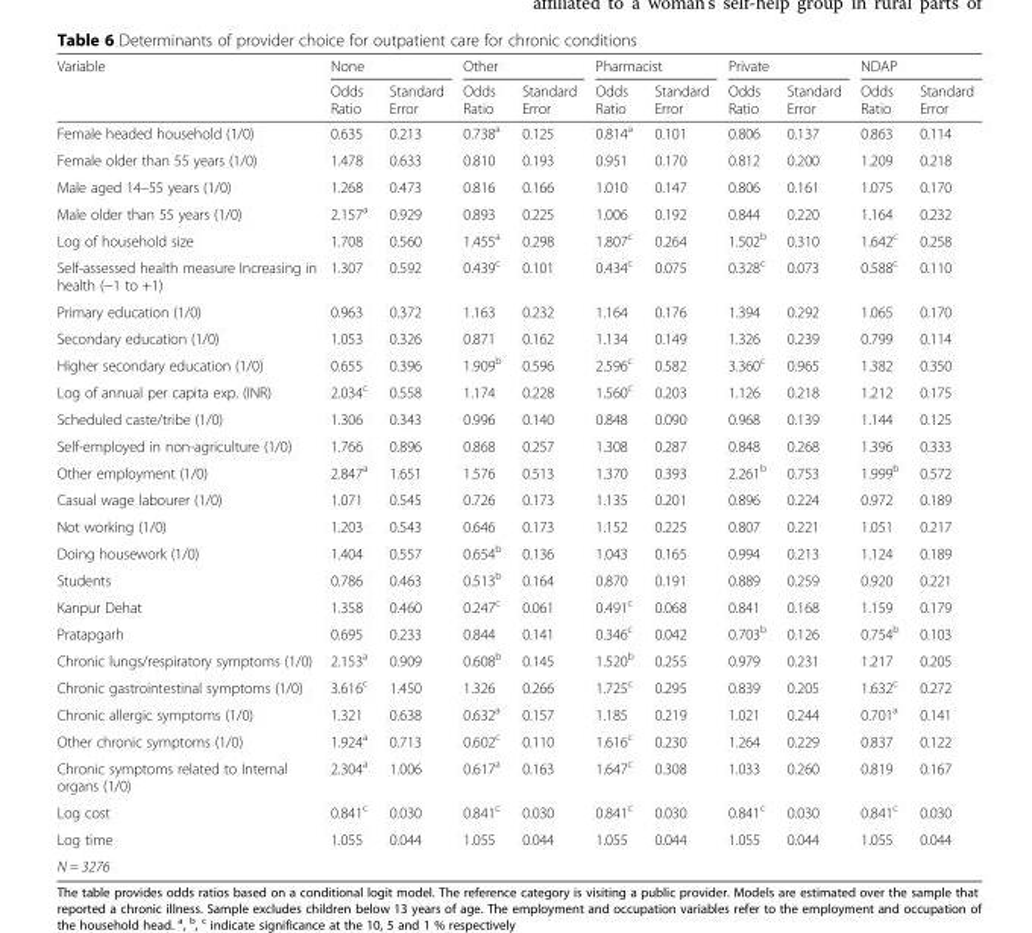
<table><thead><tr><td rowspan="2">Variable</td><td colspan="2">None</td><td colspan="2">Other</td><td colspan="2">Pharmacist</td><td colspan="2">Private</td><td colspan="2">NDAP</td></tr><tr><td>Odds Ratio</td><td>Standard Error</td><td>Odds Ratio</td><td>Standard Error</td><td>Odds Ratio</td><td>Standard Error</td><td>Odds Ratio</td><td>Standard Error</td><td>Odds Ratio</td><td>Standard Error</td></tr></thead><tbody><tr><td>Female headed household (1/0)</td><td>0.635</td><td>0.213</td><td>0.738<sup>a</sup></td><td>0.125</td><td>0.814<sup>a</sup></td><td>0.101</td><td>0.806</td><td>0.137</td><td>0.863</td><td>0.114</td></tr><tr><td>Female older than 55 years (1/0)</td><td>1.478</td><td>0.633</td><td>0.810</td><td>0.193</td><td>0.951</td><td>0.170</td><td>0.812</td><td>0.200</td><td>1.209</td><td>0.218</td></tr><tr><td>Male aged 14–55 years (1/0)</td><td>1.268</td><td>0.473</td><td>0.816</td><td>0.166</td><td>1.010</td><td>0.147</td><td>0.806</td><td>0.161</td><td>1.075</td><td>0.170</td></tr><tr><td>Male older than 55 years (1/0)</td><td>2.157<sup>a</sup></td><td>0.929</td><td>0.893</td><td>0.225</td><td>1.006</td><td>0.192</td><td>0.844</td><td>0.220</td><td>1.164</td><td>0.232</td></tr><tr><td>Log of household size</td><td>1.708</td><td>0.560</td><td>1.455<sup>a</sup></td><td>0.298</td><td>1.807<sup>c</sup></td><td>0.264</td><td>1.502<sup>b</sup></td><td>0.310</td><td>1.642<sup>c</sup></td><td>0.258</td></tr><tr><td>Self-assessed health measure Increasing in health (−1 to +1)</td><td>1.307</td><td>0.592</td><td>0.439<sup>c</sup></td><td>0.101</td><td>0.434<sup>c</sup></td><td>0.075</td><td>0.328<sup>c</sup></td><td>0.073</td><td>0.588<sup>c</sup></td><td>0.110</td></tr><tr><td>Primary education (1/0)</td><td>0.963</td><td>0.372</td><td>1.163</td><td>0.232</td><td>1.164</td><td>0.176</td><td>1.394</td><td>0.292</td><td>1.065</td><td>0.170</td></tr><tr><td>Secondary education (1/0)</td><td>1.053</td><td>0.326</td><td>0.871</td><td>0.162</td><td>1.134</td><td>0.149</td><td>1.326</td><td>0.239</td><td>0.799</td><td>0.114</td></tr><tr><td>Higher secondary education (1/0)</td><td>0.655</td><td>0.396</td><td>1.909<sup>b</sup></td><td>0.596</td><td>2.596<sup>c</sup></td><td>0.582</td><td>3.360<sup>c</sup></td><td>0.965</td><td>1.382</td><td>0.350</td></tr><tr><td>Log of annual per capita exp. (INR)</td><td>2.034<sup>c</sup></td><td>0.558</td><td>1.174</td><td>0.228</td><td>1.560<sup>c</sup></td><td>0.203</td><td>1.126</td><td>0.218</td><td>1.212</td><td>0.175</td></tr><tr><td>Scheduled caste/tribe (1/0)</td><td>1.306</td><td>0.343</td><td>0.996</td><td>0.140</td><td>0.848</td><td>0.090</td><td>0.968</td><td>0.139</td><td>1.144</td><td>0.125</td></tr><tr><td>Self-employed in non-agriculture (1/0)</td><td>1.766</td><td>0.896</td><td>0.868</td><td>0.257</td><td>1.308</td><td>0.287</td><td>0.848</td><td>0.268</td><td>1.396</td><td>0.333</td></tr><tr><td>Other employment (1/0)</td><td>2.847<sup>a</sup></td><td>1.651</td><td>1.576</td><td>0.513</td><td>1.370</td><td>0.393</td><td>2.261<sup>b</sup></td><td>0.753</td><td>1.999<sup>b</sup></td><td>0.572</td></tr><tr><td>Casual wage labourer (1/0)</td><td>1.071</td><td>0.545</td><td>0.726</td><td>0.173</td><td>1.135</td><td>0.201</td><td>0.896</td><td>0.224</td><td>0.972</td><td>0.189</td></tr><tr><td>Not working (1/0)</td><td>1.203</td><td>0.543</td><td>0.646</td><td>0.173</td><td>1.152</td><td>0.225</td><td>0.807</td><td>0.221</td><td>1.051</td><td>0.217</td></tr><tr><td>Doing housework (1/0)</td><td>1.404</td><td>0.557</td><td>0.654<sup>b</sup></td><td>0.136</td><td>1.043</td><td>0.165</td><td>0.994</td><td>0.213</td><td>1.124</td><td>0.189</td></tr><tr><td>Students</td><td>0.786</td><td>0.463</td><td>0.513<sup>b</sup></td><td>0.164</td><td>0.870</td><td>0.191</td><td>0.889</td><td>0.259</td><td>0.920</td><td>0.221</td></tr><tr><td>Kanpur Dehat</td><td>1.358</td><td>0.460</td><td>0.247<sup>c</sup></td><td>0.061</td><td>0.491<sup>c</sup></td><td>0.068</td><td>0.841</td><td>0.168</td><td>1.159</td><td>0.179</td></tr><tr><td>Pratapgarh</td><td>0.695</td><td>0.233</td><td>0.844</td><td>0.141</td><td>0.346<sup>c</sup></td><td>0.042</td><td>0.703<sup>b</sup></td><td>0.126</td><td>0.754<sup>b</sup></td><td>0.103</td></tr><tr><td>Chronic lungs/respiratory symptoms (1/0)</td><td>2.153<sup>a</sup></td><td>0.909</td><td>0.608<sup>b</sup></td><td>0.145</td><td>1.520<sup>b</sup></td><td>0.255</td><td>0.979</td><td>0.231</td><td>1.217</td><td>0.205</td></tr><tr><td>Chronic gastrointestinal symptoms (1/0)</td><td>3.616<sup>c</sup></td><td>1.450</td><td>1.326</td><td>0.266</td><td>1.725<sup>c</sup></td><td>0.295</td><td>0.839</td><td>0.205</td><td>1.632<sup>c</sup></td><td>0.272</td></tr><tr><td>Chronic allergic symptoms (1/0)</td><td>1.321</td><td>0.638</td><td>0.632<sup>a</sup></td><td>0.157</td><td>1.185</td><td>0.219</td><td>1.021</td><td>0.244</td><td>0.701<sup>a</sup></td><td>0.141</td></tr><tr><td>Other chronic symptoms (1/0)</td><td>1.924<sup>a</sup></td><td>0.713</td><td>0.602<sup>c</sup></td><td>0.110</td><td>1.616<sup>c</sup></td><td>0.230</td><td>1.264</td><td>0.229</td><td>0.837</td><td>0.122</td></tr><tr><td>Chronic symptoms related to Internal organs (1/0)</td><td>2.304<sup>a</sup></td><td>1.006</td><td>0.617<sup>a</sup></td><td>0.163</td><td>1.647<sup>c</sup></td><td>0.308</td><td>1.033</td><td>0.260</td><td>0.819</td><td>0.167</td></tr><tr><td>Log cost</td><td>0.841<sup>c</sup></td><td>0.030</td><td>0.841<sup>c</sup></td><td>0.030</td><td>0.841<sup>c</sup></td><td>0.030</td><td>0.841<sup>c</sup></td><td>0.030</td><td>0.841<sup>c</sup></td><td>0.030</td></tr><tr><td>Log time</td><td>1.055</td><td>0.044</td><td>1.055</td><td>0.044</td><td>1.055</td><td>0.044</td><td>1.055</td><td>0.044</td><td>1.055</td><td>0.044</td></tr><tr><td>N = 3276</td><td></td><td></td><td></td><td></td><td></td><td></td><td></td><td></td><td></td><td></td></tr></tbody></table>